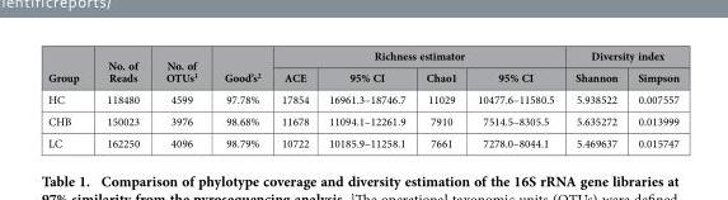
<table><thead><tr><td rowspan="2">Group</td><td rowspan="2">No. of Reads</td><td rowspan="2">No. of OTUs<sup>1</sup></td><td rowspan="2">Good’s<sup>2</sup></td><td colspan="4">Richness estimator</td><td colspan="2">Diversity index</td></tr><tr><td>ACE</td><td>95% CI</td><td>Chao1</td><td>95% CI</td><td>Shannon</td><td>Simpson</td></tr></thead><tbody><tr><td>HC</td><td>118480</td><td>4599</td><td>97.78%</td><td>17854</td><td>16961.3–18746.7</td><td>11029</td><td>10477.6–11580.5</td><td>5.938522</td><td>0.007557</td></tr><tr><td>CHB</td><td>150023</td><td>3976</td><td>98.68%</td><td>11678</td><td>11094.1–12261.9</td><td>7910</td><td>7514.5–8305.5</td><td>5.635272</td><td>0.013999</td></tr><tr><td>LC</td><td>162250</td><td>4096</td><td>98.79%</td><td>10722</td><td>10185.9–11258.1</td><td>7661</td><td>7278.0–8044.1</td><td>5.469637</td><td>0.015747</td></tr></tbody></table>